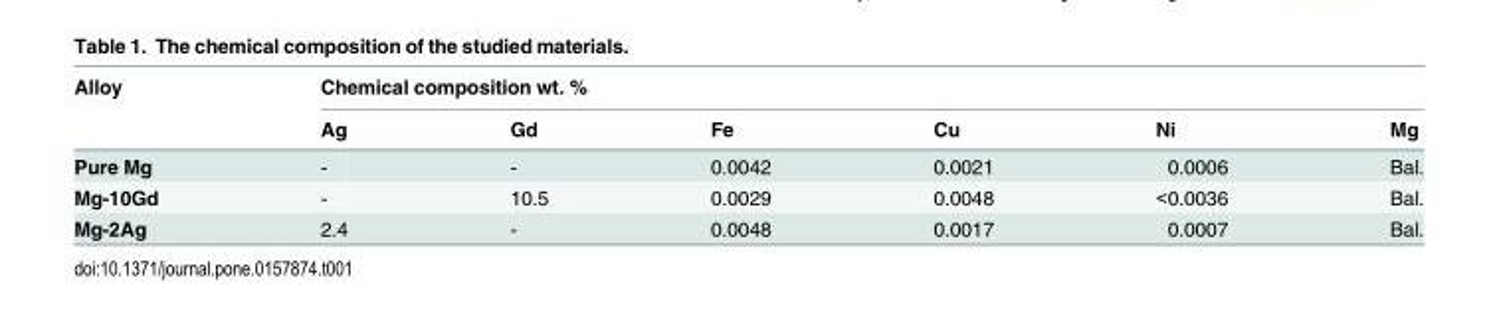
<table><thead><tr><td rowspan="2">Alloy</td><td colspan="6">Chemical composition wt. %</td></tr><tr><td>Ag</td><td>Gd</td><td>Fe</td><td>Cu</td><td>Ni</td><td>Mg</td></tr></thead><tbody><tr><td>Pure Mg</td><td>-</td><td>-</td><td>0.0042</td><td>0.0021</td><td>0.0006</td><td>Bal.</td></tr><tr><td>Mg-10Gd</td><td>-</td><td>10.5</td><td>0.0029</td><td>0.0048</td><td>&lt;0.0036</td><td>Bal.</td></tr><tr><td>Mg-2Ag</td><td>2.4</td><td>-</td><td>0.0048</td><td>0.0017</td><td>0.0007</td><td>Bal.</td></tr></tbody></table>